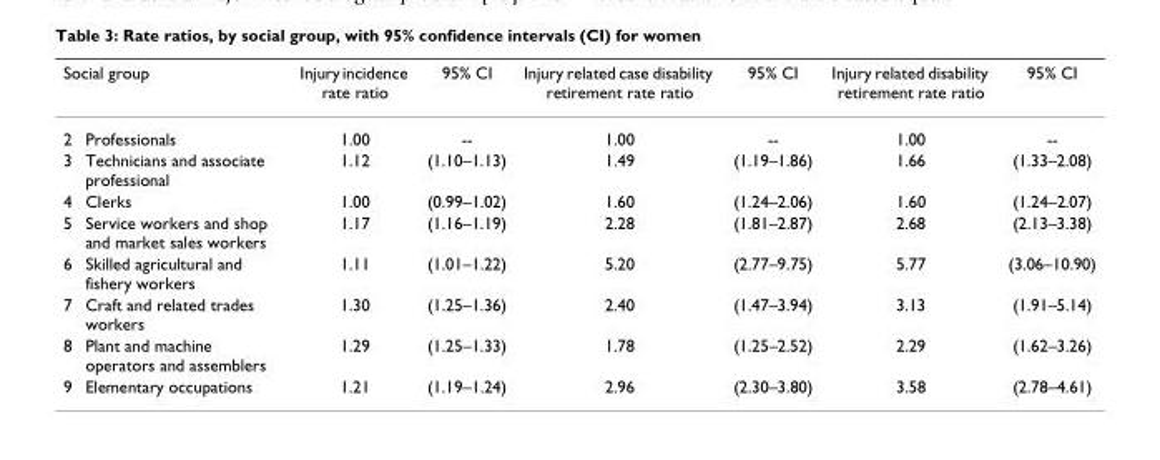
<table><thead><tr><td colspan="2">Social group</td><td rowspan="2">Injury incidence rate ratio 1.00</td><td rowspan="2">95% CI --</td><td rowspan="2">Injury related case disability retirement rate ratio 1.00</td><td rowspan="2">95% CI --</td><td rowspan="2">Injury related disability retirement rate ratio 1.00</td><td rowspan="2">95% CI --</td></tr><tr><td>2</td><td>Professionals</td></tr></thead><tbody><tr><td>3</td><td>Technicians and associate professional</td><td>1.12</td><td>(1.10–1.13)</td><td>1.49</td><td>(1.19–1.86)</td><td>1.66</td><td>(1.33–2.08)</td></tr><tr><td>4</td><td>Clerks</td><td>1.00</td><td>(0.99–1.02)</td><td>1.60</td><td>(1.24–2.06)</td><td>1.60</td><td>(1.24–2.07)</td></tr><tr><td>5</td><td>Service workers and shop and market sales workers</td><td>1.17</td><td>(1.16–1.19)</td><td>2.28</td><td>(1.81–2.87)</td><td>2.68</td><td>(2.13–3.38)</td></tr><tr><td>6</td><td>Skilled agricultural and fishery workers</td><td>1.11</td><td>(1.01–1.22)</td><td>5.20</td><td>(2.77–9.75)</td><td>5.77</td><td>(3.06–10.90)</td></tr><tr><td>7</td><td>Craft and related trades workers</td><td>1.30</td><td>(1.25–1.36)</td><td>2.40</td><td>(1.47–3.94)</td><td>3.13</td><td>(1.91–5.14)</td></tr><tr><td>8</td><td>Plant and machine operators and assemblers</td><td>1.29</td><td>(1.25–1.33)</td><td>1.78</td><td>(1.25–2.52)</td><td>2.29</td><td>(1.62–3.26)</td></tr><tr><td>9</td><td>Elementary occupations</td><td>1.21</td><td>(1.19–1.24)</td><td>2.96</td><td>(2.30–3.80)</td><td>3.58</td><td>(2.78–4.61)</td></tr></tbody></table>